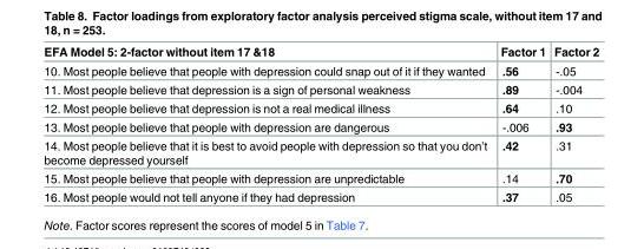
<table><thead><tr><td>EFA Model 5: 2-factor without item 17 &amp;18</td><td>Factor 1</td><td>Factor 2</td></tr></thead><tbody><tr><td>10. Most people believe that people with depression could snap out of it if they wanted</td><td>.56</td><td>-.05</td></tr><tr><td>11. Most people believe that depression is a sign of personal weakness</td><td>.89</td><td>-.004</td></tr><tr><td>12. Most people believe that depression is not a real medical illness</td><td>.64</td><td>.10</td></tr><tr><td>13. Most people believe that people with depression are dangerous</td><td>-.006</td><td>.93</td></tr><tr><td>14. Most people believe that it is best to avoid people with depression so that you don’t become depressed yourself</td><td>.42</td><td>.31</td></tr><tr><td>15. Most people believe that people with depression are unpredictable</td><td>.14</td><td>.70</td></tr><tr><td>16. Most people would not tell anyone if they had depression</td><td>.37</td><td>.05</td></tr></tbody></table>